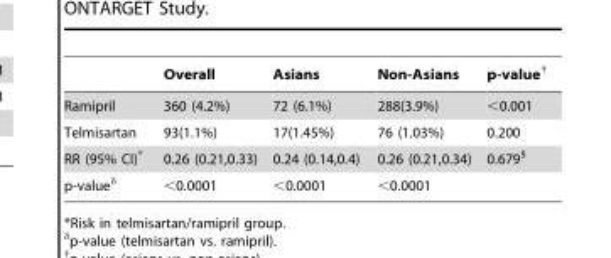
<table><thead><tr><td></td><td>Overall</td><td>Asians</td><td>Non-Asians</td><td>p-value†</td></tr></thead><tbody><tr><td>Ramipril</td><td>360 (4.2%)</td><td>72 (6.1%)</td><td>288(3.9%)</td><td>&lt;0.001</td></tr><tr><td>Telmisartan</td><td>93(1.1%)</td><td>17(1.45%)</td><td>76 (1.03%)</td><td>0.200</td></tr><tr><td>RR (95% CI)*</td><td>0.26 (0.21,0.33)</td><td>0.24 (0.14,0.4)</td><td>0.26 (0.21,0.34)</td><td>0.679§</td></tr><tr><td>p-valueδ</td><td>&lt;0.0001</td><td>&lt;0.0001</td><td>&lt;0.0001</td><td></td></tr></tbody></table>